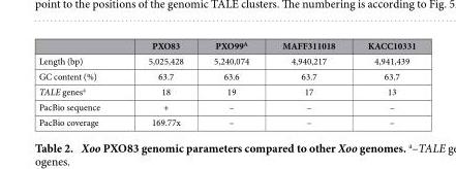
<table><thead><tr><td></td><td>PXO83</td><td>PXO99<sup>A</sup></td><td>MAFF311018</td><td>KACC10331</td></tr></thead><tbody><tr><td>Length (bp)</td><td>5,025,428</td><td>5,240,074</td><td>4,940,217</td><td>4,941,439</td></tr><tr><td>GC content (%)</td><td>63.7</td><td>63.6</td><td>63.7</td><td>63.7</td></tr><tr><td>TALE genes<sup>a</sup></td><td>18</td><td>19</td><td>17</td><td>13</td></tr><tr><td>PacBio sequence</td><td>+</td><td>–</td><td>–</td><td>–</td></tr><tr><td>PacBio coverage</td><td>169.77x</td><td>–</td><td>–</td><td>–</td></tr></tbody></table>